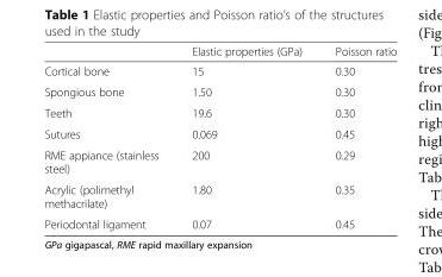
<table><thead><tr><td></td><td>Elastic properties (GPa)</td><td>Poisson ratio</td></tr></thead><tbody><tr><td>Cortical bone</td><td>15</td><td>0.30</td></tr><tr><td>Spongious bone</td><td>1.50</td><td>0.30</td></tr><tr><td>Teeth</td><td>19.6</td><td>0.30</td></tr><tr><td>Sutures</td><td>0.069</td><td>0.45</td></tr><tr><td>RME appiance (stainless steel)</td><td>200</td><td>0.29</td></tr><tr><td>Acrylic (polimethyl methacrilate)</td><td>1.80</td><td>0.35</td></tr><tr><td>Periodontal ligament</td><td>0.07</td><td>0.45</td></tr></tbody></table>